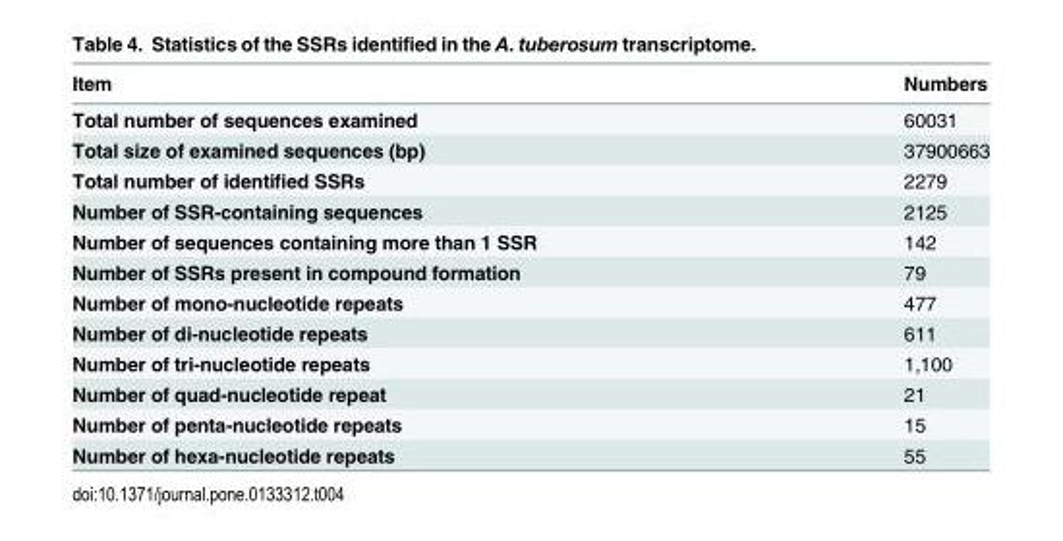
<table><thead><tr><td>Item</td><td>Numbers</td></tr></thead><tbody><tr><td>Total number of sequences examined</td><td>60031</td></tr><tr><td>Total size of examined sequences (bp)</td><td>37900663</td></tr><tr><td>Total number of identified SSRs</td><td>2279</td></tr><tr><td>Number of SSR-containing sequences</td><td>2125</td></tr><tr><td>Number of sequences containing more than 1 SSR</td><td>142</td></tr><tr><td>Number of SSRs present in compound formation</td><td>79</td></tr><tr><td>Number of mono-nucleotide repeats</td><td>477</td></tr><tr><td>Number of di-nucleotide repeats</td><td>611</td></tr><tr><td>Number of tri-nucleotide repeats</td><td>1,100</td></tr><tr><td>Number of quad-nucleotide repeat</td><td>21</td></tr><tr><td>Number of penta-nucleotide repeats</td><td>15</td></tr><tr><td>Number of hexa-nucleotide repeats</td><td>55</td></tr></tbody></table>